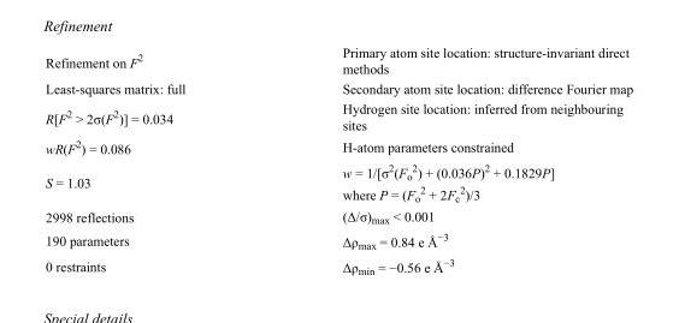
<table><tbody><tr><td>Refinement on F<sup>2</sup></td><td>Primary atom site location: structure-invariant direct methods</td></tr><tr><td>Least-squares matrix: full</td><td>Secondary atom site location: difference Fourier map</td></tr><tr><td>R[F<sup>2</sup> &gt; 2σ(F<sup>2</sup>)] = 0.034</td><td>Hydrogen site location: inferred from neighbouring sites</td></tr><tr><td>wR(F<sup>2</sup>) = 0.086</td><td>H-atom parameters constrained</td></tr><tr><td>S = 1.03</td><td>w = 1/[σ<sup>2</sup>(F<sub>o</sub> <sup>2</sup>) + (0.036P)<sup>2</sup> + 0.1829P] where P = (F<sub>o</sub> <sup>2</sup> + 2F<sub>c</sub> <sup>2</sup>)/3</td></tr><tr><td>2998 reflections</td><td>(Δ/σ)<sub>max</sub> &lt; 0.001</td></tr><tr><td>190 parameters</td><td>Δρ<sub>max</sub> = 0.84 e Å<sup>−3</sup></td></tr><tr><td>0 restraints</td><td>Δρ<sub>min</sub> = −0.56 e Å<sup>−3</sup></td></tr></tbody></table>